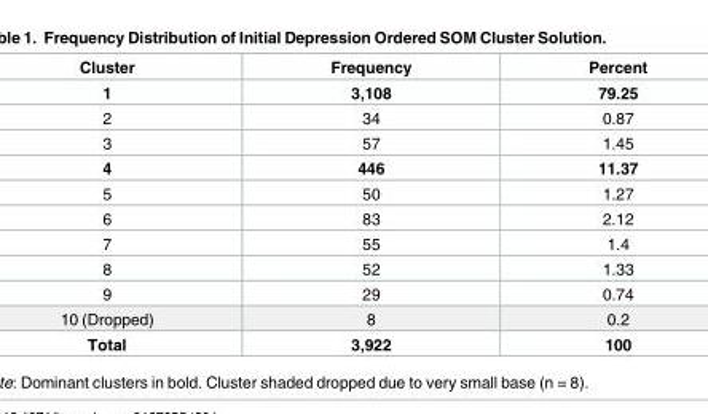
<table><thead><tr><td>Cluster</td><td>Frequency</td><td>Percent</td></tr></thead><tbody><tr><td>1</td><td>3,108</td><td>79.25</td></tr><tr><td>2</td><td>34</td><td>0.87</td></tr><tr><td>3</td><td>57</td><td>1.45</td></tr><tr><td>4</td><td>446</td><td>11.37</td></tr><tr><td>5</td><td>50</td><td>1.27</td></tr><tr><td>6</td><td>83</td><td>2.12</td></tr><tr><td>7</td><td>55</td><td>1.4</td></tr><tr><td>8</td><td>52</td><td>1.33</td></tr><tr><td>9</td><td>29</td><td>0.74</td></tr><tr><td>10 (Dropped)</td><td>8</td><td>0.2</td></tr><tr><td>Total</td><td>3,922</td><td>100</td></tr></tbody></table>